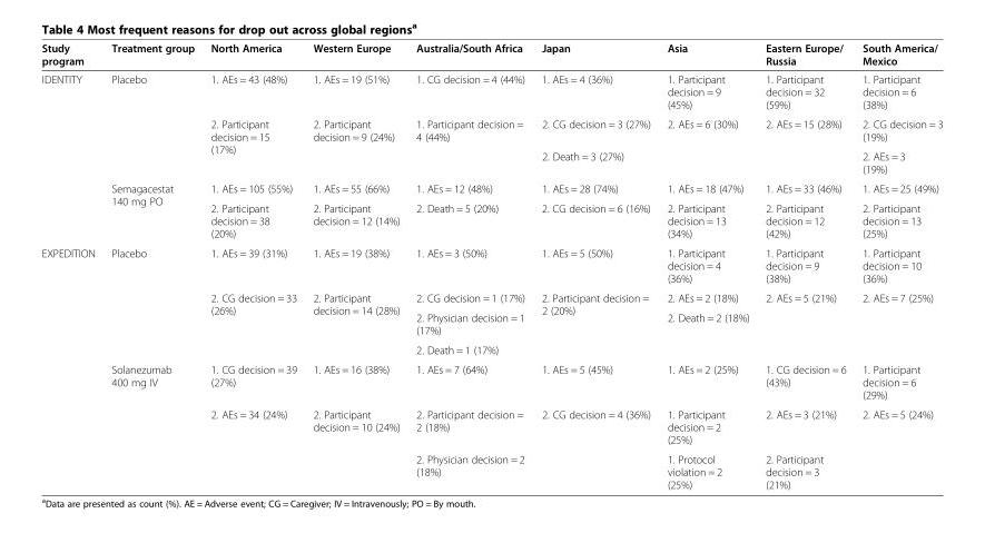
<table><thead><tr><td>Study program</td><td>Treatment group</td><td>North America</td><td>Western Europe</td><td>Australia/South Africa</td><td>Japan</td><td>Asia</td><td>Eastern Europe/ Russia</td><td>South America/ Mexico</td></tr></thead><tbody><tr><td rowspan="5">IDENTITY</td><td rowspan="3">Placebo</td><td>1. AEs = 43 (48%)</td><td>1. AEs = 19 (51%)</td><td>1. CG decision = 4 (44%)</td><td>1. AEs = 4 (36%)</td><td>1. Participant decision = 9 (45%)</td><td>1. Participant decision = 32 (59%)</td><td>1. Participant decision = 6 (38%)</td></tr><tr><td rowspan="2">2. Participant decision = 15 (17%)</td><td rowspan="2">2. Participant decision = 9 (24%)</td><td rowspan="2">1. Participant decision = 4 (44%)</td><td>2. CG decision = 3 (27%)</td><td rowspan="2">2. AEs = 6 (30%)</td><td rowspan="2">2. AEs = 15 (28%)</td><td>2. CG decision = 3 (19%)</td></tr><tr><td>2. Death = 3 (27%)</td><td>2. AEs = 3 (19%)</td></tr><tr><td rowspan="2">Semagacestat 140 mg PO</td><td>1. AEs = 105 (55%)</td><td>1. AEs = 55 (66%)</td><td>1. AEs = 12 (48%)</td><td>1. AEs = 28 (74%)</td><td>1. AEs = 18 (47%)</td><td>1. AEs = 33 (46%)</td><td>1. AEs = 25 (49%)</td></tr><tr><td>2. Participant decision = 38 (20%)</td><td>2. Participant decision = 12 (14%)</td><td>2. Death = 5 (20%)</td><td>2. CG decision = 6 (16%)</td><td>2. Participant decision = 13 (34%)</td><td>2. Participant decision = 12 (42%)</td><td>2. Participant decision = 13 (25%)</td></tr><tr><td rowspan="7">EXPEDITION</td><td rowspan="4">Placebo</td><td>1. AEs = 39 (31%)</td><td>1. AEs = 19 (38%)</td><td>1. AEs = 3 (50%)</td><td>1. AEs = 5 (50%)</td><td>1. Participant decision = 4 (36%)</td><td>1. Participant decision = 9 (38%)</td><td>1. Participant decision = 10 (36%)</td></tr><tr><td rowspan="3">2. CG decision = 33 (26%)</td><td rowspan="3">2. Participant decision = 14 (28%)</td><td>2. CG decision = 1 (17%)</td><td rowspan="3">2. Participant decision = 2 (20%)</td><td>2. AEs = 2 (18%)</td><td rowspan="3">2. AEs = 5 (21%)</td><td rowspan="3">2. AEs = 7 (25%)</td></tr><tr><td>2. Physician decision = 1 (17%)</td><td rowspan="2">2. Death = 2 (18%)</td></tr><tr><td>2. Death = 1 (17%)</td></tr><tr><td rowspan="3">Solanezumab 400 mg IV</td><td>1. CG decision = 39 (27%)</td><td>1. AEs = 16 (38%)</td><td>1. AEs = 7 (64%)</td><td>1. AEs = 5 (45%)</td><td>1. AEs = 2 (25%)</td><td>1. CG decision = 6 (43%)</td><td>1. Participant decision = 6 (29%)</td></tr><tr><td rowspan="2">2. AEs = 34 (24%)</td><td rowspan="2">2. Participant decision = 10 (24%)</td><td>2. Participant decision = 2 (18%)</td><td rowspan="2">2. CG decision = 4 (36%)</td><td>1. Participant decision = 2 (25%)</td><td>2. AEs = 3 (21%)</td><td rowspan="2">2. AEs = 5 (24%)</td></tr><tr><td>2. Physician decision = 2 (18%)</td><td>1. Protocol violation = 2 (25%)</td><td>2. Participant decision = 3 (21%)</td></tr></tbody></table>